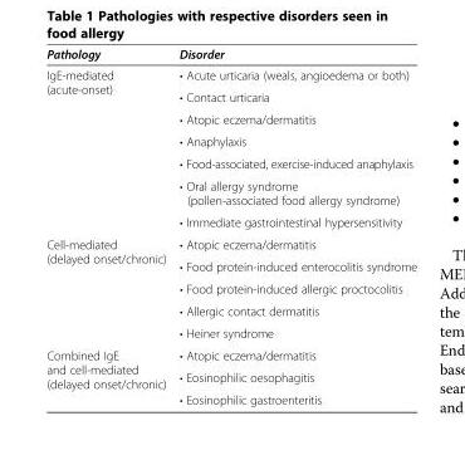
<table><thead><tr><td>Pathology</td><td>Disorder</td></tr></thead><tbody><tr><td rowspan="7">IgE-mediated (acute-onset)</td><td>• Acute urticaria (weals, angioedema or both)</td></tr><tr><td>• Contact urticaria</td></tr><tr><td>• Atopic eczema/dermatitis</td></tr><tr><td>• Anaphylaxis</td></tr><tr><td>• Food-associated, exercise-induced anaphylaxis</td></tr><tr><td>• Oral allergy syndrome (pollen-associated food allergy syndrome)</td></tr><tr><td>• Immediate gastrointestinal hypersensitivity</td></tr><tr><td rowspan="5">Cell-mediated (delayed onset/chronic)</td><td>• Atopic eczema/dermatitis</td></tr><tr><td>• Food protein-induced enterocolitis syndrome</td></tr><tr><td>• Food protein-induced allergic proctocolitis</td></tr><tr><td>• Allergic contact dermatitis</td></tr><tr><td>• Heiner syndrome</td></tr><tr><td rowspan="3">Combined IgE and cell-mediated (delayed onset/chronic)</td><td>• Atopic eczema/dermatitis</td></tr><tr><td>• Eosinophilic oesophagitis</td></tr><tr><td>• Eosinophilic gastroenteritis</td></tr></tbody></table>